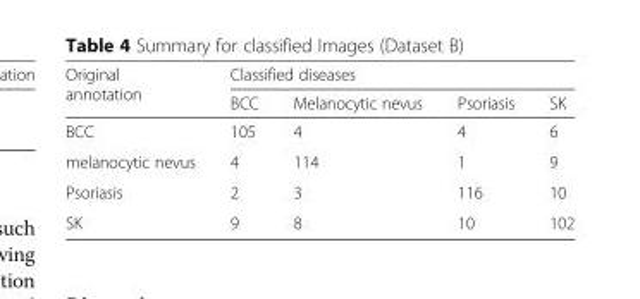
<table><thead><tr><td rowspan="2">Original annotation</td><td colspan="4">Classified diseases</td></tr><tr><td>BCC</td><td>Melanocytic nevus</td><td>Psoriasis</td><td>SK</td></tr></thead><tbody><tr><td>BCC</td><td>105</td><td>4</td><td>4</td><td>6</td></tr><tr><td>melanocytic nevus</td><td>4</td><td>114</td><td>1</td><td>9</td></tr><tr><td>Psoriasis</td><td>2</td><td>3</td><td>116</td><td>10</td></tr><tr><td>SK</td><td>9</td><td>8</td><td>10</td><td>102</td></tr></tbody></table>